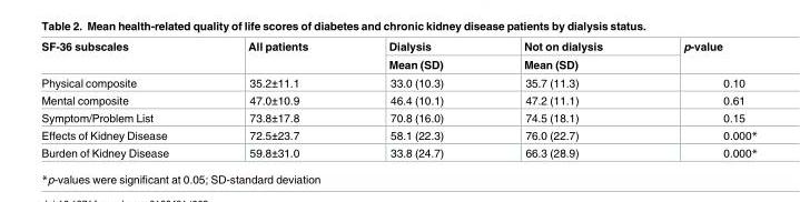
<table><thead><tr><td rowspan="2">SF-36 subscales</td><td rowspan="2">All patients</td><td rowspan="2">Dialysis Mean (SD)</td><td rowspan="2">Not on dialysis Mean (SD)</td><td rowspan="2">p-value</td></tr><tr></tr></thead><tbody><tr><td>Physical composite</td><td>35.2±11.1</td><td>33.0 (10.3)</td><td>35.7 (11.3)</td><td>0.10</td></tr><tr><td>Mental composite</td><td>47.0±10.9</td><td>46.4 (10.1)</td><td>47.2 (11.1)</td><td>0.61</td></tr><tr><td>Symptom/Problem List</td><td>73.8±17.8</td><td>70.8 (16.0)</td><td>74.5 (18.1)</td><td>0.15</td></tr><tr><td>Effects of Kidney Disease</td><td>72.5±23.7</td><td>58.1 (22.3)</td><td>76.0 (22.7)</td><td>0.000*</td></tr><tr><td>Burden of Kidney Disease</td><td>59.8±31.0</td><td>33.8 (24.7)</td><td>66.3 (28.9)</td><td>0.000*</td></tr></tbody></table>